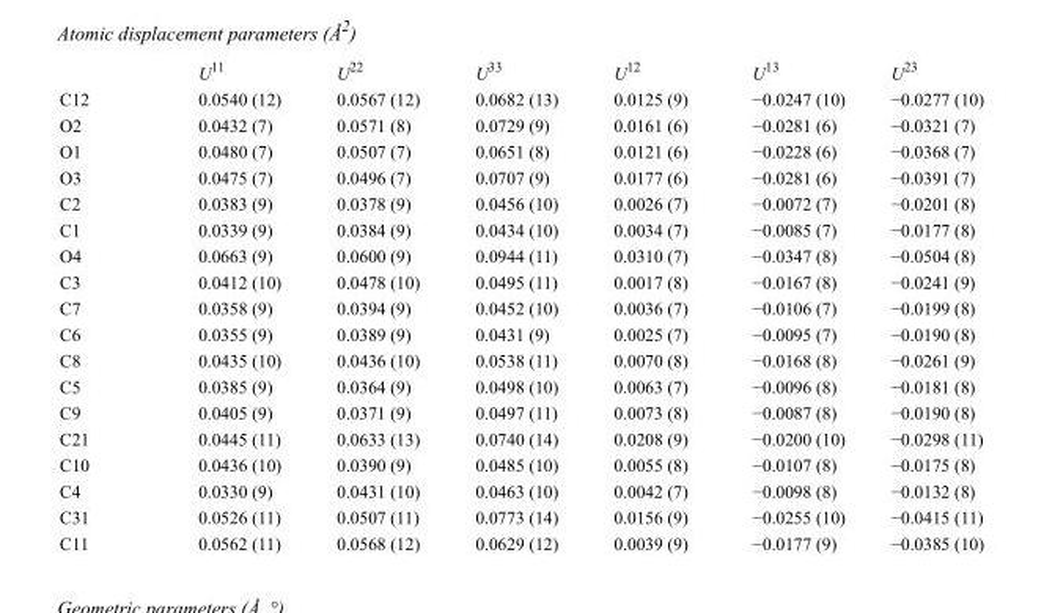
<table><thead><tr><td></td><td>U<sup>11</sup></td><td>U<sup>22</sup></td><td>U<sup>33</sup></td><td>U<sup>12</sup></td><td>U<sup>13</sup></td><td>U<sup>23</sup></td></tr></thead><tbody><tr><td>C12</td><td>0.0540 (12)</td><td>0.0567 (12)</td><td>0.0682 (13)</td><td>0.0125 (9)</td><td>−0.0247 (10)</td><td>−0.0277 (10)</td></tr><tr><td>O2</td><td>0.0432 (7)</td><td>0.0571 (8)</td><td>0.0729 (9)</td><td>0.0161 (6)</td><td>−0.0281 (6)</td><td>−0.0321 (7)</td></tr><tr><td>O1</td><td>0.0480 (7)</td><td>0.0507 (7)</td><td>0.0651 (8)</td><td>0.0121 (6)</td><td>−0.0228 (6)</td><td>−0.0368 (7)</td></tr><tr><td>O3</td><td>0.0475 (7)</td><td>0.0496 (7)</td><td>0.0707 (9)</td><td>0.0177 (6)</td><td>−0.0281 (6)</td><td>−0.0391 (7)</td></tr><tr><td>C2</td><td>0.0383 (9)</td><td>0.0378 (9)</td><td>0.0456 (10)</td><td>0.0026 (7)</td><td>−0.0072 (7)</td><td>−0.0201 (8)</td></tr><tr><td>C1</td><td>0.0339 (9)</td><td>0.0384 (9)</td><td>0.0434 (10)</td><td>0.0034 (7)</td><td>−0.0085 (7)</td><td>−0.0177 (8)</td></tr><tr><td>O4</td><td>0.0663 (9)</td><td>0.0600 (9)</td><td>0.0944 (11)</td><td>0.0310 (7)</td><td>−0.0347 (8)</td><td>−0.0504 (8)</td></tr><tr><td>C3</td><td>0.0412 (10)</td><td>0.0478 (10)</td><td>0.0495 (11)</td><td>0.0017 (8)</td><td>−0.0167 (8)</td><td>−0.0241 (9)</td></tr><tr><td>C7</td><td>0.0358 (9)</td><td>0.0394 (9)</td><td>0.0452 (10)</td><td>0.0036 (7)</td><td>−0.0106 (7)</td><td>−0.0199 (8)</td></tr><tr><td>C6</td><td>0.0355 (9)</td><td>0.0389 (9)</td><td>0.0431 (9)</td><td>0.0025 (7)</td><td>−0.0095 (7)</td><td>−0.0190 (8)</td></tr><tr><td>C8</td><td>0.0435 (10)</td><td>0.0436 (10)</td><td>0.0538 (11)</td><td>0.0070 (8)</td><td>−0.0168 (8)</td><td>−0.0261 (9)</td></tr><tr><td>C5</td><td>0.0385 (9)</td><td>0.0364 (9)</td><td>0.0498 (10)</td><td>0.0063 (7)</td><td>−0.0096 (8)</td><td>−0.0181 (8)</td></tr><tr><td>C9</td><td>0.0405 (9)</td><td>0.0371 (9)</td><td>0.0497 (11)</td><td>0.0073 (8)</td><td>−0.0087 (8)</td><td>−0.0190 (8)</td></tr><tr><td>C21</td><td>0.0445 (11)</td><td>0.0633 (13)</td><td>0.0740 (14)</td><td>0.0208 (9)</td><td>−0.0200 (10)</td><td>−0.0298 (11)</td></tr><tr><td>C10</td><td>0.0436 (10)</td><td>0.0390 (9)</td><td>0.0485 (10)</td><td>0.0055 (8)</td><td>−0.0107 (8)</td><td>−0.0175 (8)</td></tr><tr><td>C4</td><td>0.0330 (9)</td><td>0.0431 (10)</td><td>0.0463 (10)</td><td>0.0042 (7)</td><td>−0.0098 (8)</td><td>−0.0132 (8)</td></tr><tr><td>C31</td><td>0.0526 (11)</td><td>0.0507 (11)</td><td>0.0773 (14)</td><td>0.0156 (9)</td><td>−0.0255 (10)</td><td>−0.0415 (11)</td></tr><tr><td>C11</td><td>0.0562 (11)</td><td>0.0568 (12)</td><td>0.0629 (12)</td><td>0.0039 (9)</td><td>−0.0177 (9)</td><td>−0.0385 (10)</td></tr></tbody></table>